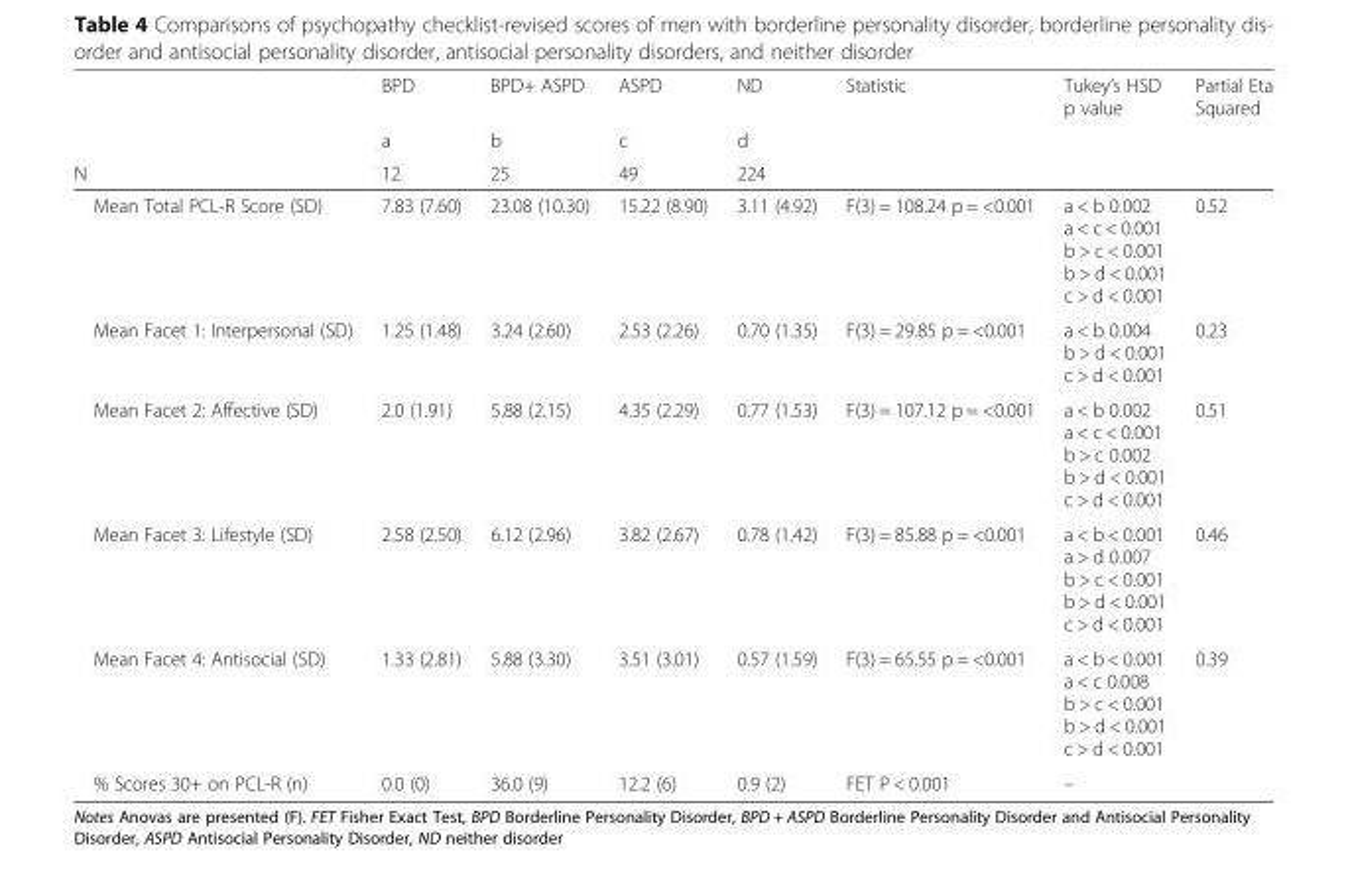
<table><thead><tr><td rowspan="3">N</td><td rowspan="3">BPD a 12</td><td rowspan="3">BPD+ ASPD b 25</td><td rowspan="3">ASPD c 49</td><td rowspan="3">ND d 224</td><td rowspan="3">Statistic</td><td rowspan="3">Tukey’s HSD p value</td><td rowspan="3">Partial Eta Squared</td></tr><tr></tr><tr></tr></thead><tbody><tr><td>Mean Total PCL-R Score (SD)</td><td>7.83 (7.60)</td><td>23.08 (10.30)</td><td>15.22 (8.90)</td><td>3.11 (4.92)</td><td>F(3) = 108.24 p = &lt;0.001</td><td>a &lt; b 0.002 a &lt; c &lt; 0.001 b &gt; c &lt; 0.001 b &gt; d &lt; 0.001 c &gt; d &lt; 0.001</td><td>0.52</td></tr><tr><td>Mean Facet 1: Interpersonal (SD)</td><td>1.25 (1.48)</td><td>3.24 (2.60)</td><td>2.53 (2.26)</td><td>0.70 (1.35)</td><td>F(3) = 29.85 p = &lt;0.001</td><td>a &lt; b 0.004 b &gt; d &lt; 0.001 c &gt; d &lt; 0.001</td><td>0.23</td></tr><tr><td>Mean Facet 2: Affective (SD)</td><td>2.0 (1.91)</td><td>5.88 (2.15)</td><td>4.35 (2.29)</td><td>0.77 (1.53)</td><td>F(3) = 107.12 p = &lt;0.001</td><td>a &lt; b 0.002 a &lt; c &lt; 0.001 b &gt; c 0.002 b &gt; d &lt; 0.001 c &gt; d &lt; 0.001</td><td>0.51</td></tr><tr><td>Mean Facet 3: Lifestyle (SD)</td><td>2.58 (2.50)</td><td>6.12 (2.96)</td><td>3.82 (2.67)</td><td>0.78 (1.42)</td><td>F(3) = 85.88 p = &lt;0.001</td><td>a &lt; b &lt; 0.001 a &gt; d 0.007 b &gt; c &lt; 0.001 b &gt; d &lt; 0.001 c &gt; d &lt; 0.001</td><td>0.46</td></tr><tr><td>Mean Facet 4: Antisocial (SD)</td><td>1.33 (2.81)</td><td>5.88 (3.30)</td><td>3.51 (3.01)</td><td>0.57 (1.59)</td><td>F(3) = 65.55 p = &lt;0.001</td><td>a &lt; b &lt; 0.001 a &lt; c 0.008 b &gt; c &lt; 0.001 b &gt; d &lt; 0.001 c &gt; d &lt; 0.001</td><td>0.39</td></tr><tr><td>% Scores 30+ on PCL-R (n)</td><td>0.0 (0)</td><td>36.0 (9)</td><td>12.2 (6)</td><td>0.9 (2)</td><td>FET P &lt; 0.001</td><td>–</td><td></td></tr></tbody></table>